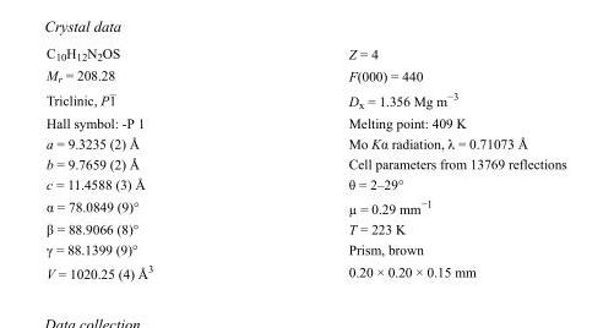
<table><tbody><tr><td>C<sub>10</sub>H<sub>12</sub>N<sub>2</sub>OS</td><td>Z = 4</td></tr><tr><td>M<sub>r</sub> = 208.28</td><td>F(000) = 440</td></tr><tr><td>Triclinic, P1</td><td>D<sub>x</sub> = 1.356 Mg m<sup>−3</sup></td></tr><tr><td>Hall symbol: -P 1</td><td>Melting point: 409 K</td></tr><tr><td>a = 9.3235 (2) Å</td><td>Mo Kα radiation, λ = 0.71073 Å</td></tr><tr><td>b = 9.7659 (2) Å</td><td>Cell parameters from 13769 reflections</td></tr><tr><td>c = 11.4588 (3) Å</td><td>θ = 2–29°</td></tr><tr><td>α = 78.0849 (9)°</td><td>µ = 0.29 mm−1</td></tr><tr><td>β = 88.9066 (8)°</td><td>T = 223 K</td></tr><tr><td>γ = 88.1399 (9)°</td><td>Prism, brown</td></tr><tr><td>V = 1020.25 (4) Å<sup>3</sup></td><td>0.20 × 0.20 × 0.15 mm</td></tr></tbody></table>